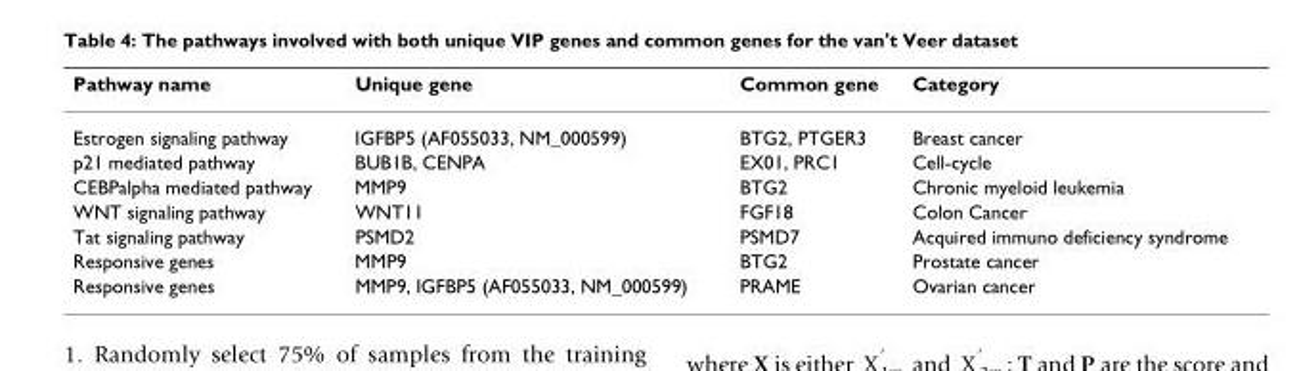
<table><thead><tr><td>Pathway name</td><td>Unique gene</td><td>Common gene</td><td>Category</td></tr></thead><tbody><tr><td>Estrogen signaling pathway</td><td>IGFBP5 (AF055033, NM_000599)</td><td>BTG2, PTGER3</td><td>Breast cancer</td></tr><tr><td>p21 mediated pathway</td><td>BUB1B, CENPA</td><td>EX01, PRC1</td><td>Cell-cycle</td></tr><tr><td>CEBPalpha mediated pathway</td><td>MMP9</td><td>BTG2</td><td>Chronic myeloid leukemia</td></tr><tr><td>WNT signaling pathway</td><td>WNT11</td><td>FGF18</td><td>Colon Cancer</td></tr><tr><td>Tat signaling pathway</td><td>PSMD2</td><td>PSMD7</td><td>Acquired immuno deficiency syndrome</td></tr><tr><td>Responsive genes</td><td>MMP9</td><td>BTG2</td><td>Prostate cancer</td></tr><tr><td>Responsive genes</td><td>MMP9, IGFBP5 (AF055033, NM_000599)</td><td>PRAME</td><td>Ovarian cancer</td></tr></tbody></table>